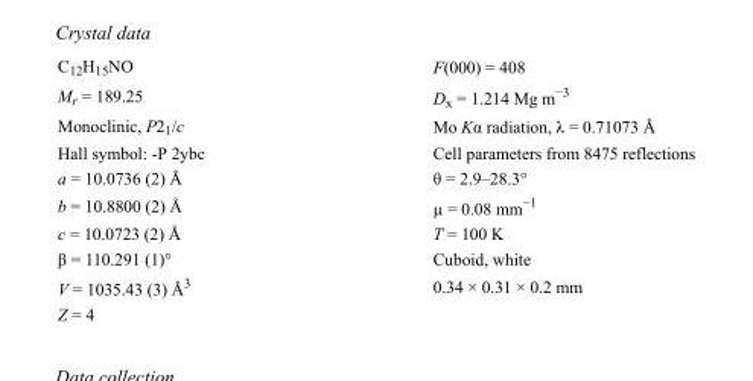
<table><tbody><tr><td>C<sub>12</sub>H<sub>15</sub>NO</td><td>F(000) = 408</td></tr><tr><td>M<sub>r</sub> = 189.25</td><td>D<sub>x</sub> = 1.214 Mg m<sup>−3</sup></td></tr><tr><td>Monoclinic, P2<sub>1</sub>/c</td><td>Mo Kα radiation, λ = 0.71073 Å</td></tr><tr><td>Hall symbol: -P 2ybc</td><td>Cell parameters from 8475 reflections</td></tr><tr><td>a = 10.0736 (2) Å</td><td>θ = 2.9–28.3°</td></tr><tr><td>b = 10.8800 (2) Å</td><td>µ = 0.08 mm<sup>−1</sup></td></tr><tr><td>c = 10.0723 (2) Å</td><td>T = 100 K</td></tr><tr><td>β = 110.291 (1)°</td><td>Cuboid, white</td></tr><tr><td>V = 1035.43 (3) Å<sup>3</sup></td><td>0.34 × 0.31 × 0.2 mm</td></tr><tr><td>Z = 4</td><td></td></tr></tbody></table>